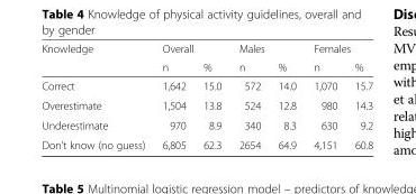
<table><thead><tr><td rowspan="2">Knowledge</td><td colspan="2">Overall</td><td colspan="2">Males</td><td colspan="2">Females</td></tr><tr><td>n</td><td>%</td><td>n</td><td>%</td><td>n</td><td>%</td></tr></thead><tbody><tr><td>Correct</td><td>1,642</td><td>15.0</td><td>572</td><td>14.0</td><td>1,070</td><td>15.7</td></tr><tr><td>Overestimate</td><td>1,504</td><td>13.8</td><td>524</td><td>12.8</td><td>980</td><td>14.3</td></tr><tr><td>Underestimate</td><td>970</td><td>8.9</td><td>340</td><td>8.3</td><td>630</td><td>9.2</td></tr><tr><td>Don’t know (no guess)</td><td>6,805</td><td>62.3</td><td>2654</td><td>64.9</td><td>4,151</td><td>60.8</td></tr></tbody></table>